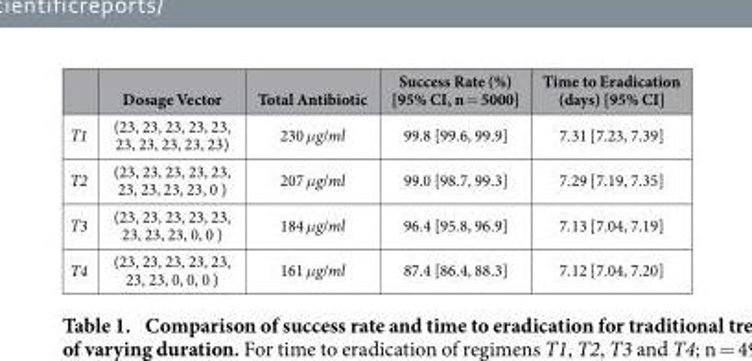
<table><thead><tr><td></td><td>Dosage Vector</td><td>Total Antibiotic</td><td>Success Rate (%) [95% CI, n = 5000]</td><td>Time to Eradication (days) [95% CI]</td></tr></thead><tbody><tr><td>T1</td><td>(23, 23, 23, 23, 23, 23, 23, 23, 23, 23)</td><td>230 μg/ml</td><td>99.8 [99.6, 99.9]</td><td>7.31 [7.23, 7.39]</td></tr><tr><td>T2</td><td>(23, 23, 23, 23, 23, 23, 23, 23, 23, 0 )</td><td>207 μg/ml</td><td>99.0 [98.7, 99.3]</td><td>7.29 [7.19, 7.35]</td></tr><tr><td>T3</td><td>(23, 23, 23, 23, 23, 23, 23, 23, 0, 0 )</td><td>184 μg/ml</td><td>96.4 [95.8, 96.9]</td><td>7.13 [7.04, 7.19]</td></tr><tr><td>T4</td><td>(23, 23, 23, 23, 23, 23, 23, 0, 0, 0 )</td><td>161 μg/ml</td><td>87.4 [86.4, 88.3]</td><td>7.12 [7.04, 7.20]</td></tr></tbody></table>